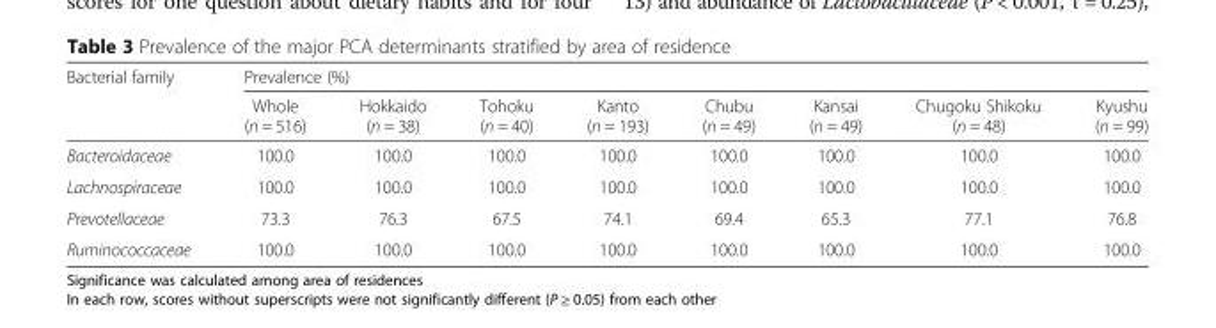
<table><thead><tr><td rowspan="2">Bacterial family</td><td colspan="8">Prevalence (%)</td></tr><tr><td>Whole (n = 516)</td><td>Hokkaido (n = 38)</td><td>Tohoku (n = 40)</td><td>Kanto (n = 193)</td><td>Chubu (n = 49)</td><td>Kansai (n = 49)</td><td>Chugoku Shikoku (n = 48)</td><td>Kyushu (n = 99)</td></tr></thead><tbody><tr><td>Bacteroidaceae</td><td>100.0</td><td>100.0</td><td>100.0</td><td>100.0</td><td>100.0</td><td>100.0</td><td>100.0</td><td>100.0</td></tr><tr><td>Lachnospiraceae</td><td>100.0</td><td>100.0</td><td>100.0</td><td>100.0</td><td>100.0</td><td>100.0</td><td>100.0</td><td>100.0</td></tr><tr><td>Prevotellaceae</td><td>73.3</td><td>76.3</td><td>67.5</td><td>74.1</td><td>69.4</td><td>65.3</td><td>77.1</td><td>76.8</td></tr><tr><td>Ruminococcaceae</td><td>100.0</td><td>100.0</td><td>100.0</td><td>100.0</td><td>100.0</td><td>100.0</td><td>100.0</td><td>100.0</td></tr></tbody></table>